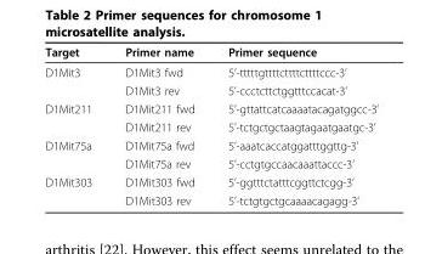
<table><thead><tr><td>Target</td><td>Primer name</td><td>Primer sequence</td></tr></thead><tbody><tr><td rowspan="2">D1Mit3</td><td>D1Mit3 fwd</td><td>5’-tttttgttttcttttcttttccc-3’</td></tr><tr><td>D1Mit3 rev</td><td>5’-ccctcttctggtttccacat-3’</td></tr><tr><td rowspan="2">D1Mit211</td><td>D1Mit211 fwd</td><td>5’-gttattcatcaaaatacagatggcc-3’</td></tr><tr><td>D1Mit211 rev</td><td>5’-tctgctgctaagtagaatgaatgc-3’</td></tr><tr><td rowspan="2">D1Mit75a</td><td>D1Mit75a fwd</td><td>5’-aaatcaccatggatttggttg-3’</td></tr><tr><td>D1Mit75a rev</td><td>5’-cctgtgccaacaaattaccc-3’</td></tr><tr><td rowspan="2">D1Mit303</td><td>D1Mit303 fwd</td><td>5’-ggtttctatttcggttctcgg-3’</td></tr><tr><td>D1Mit303 rev</td><td>5’-tctgtgctgcaaaacagagg-3’</td></tr></tbody></table>